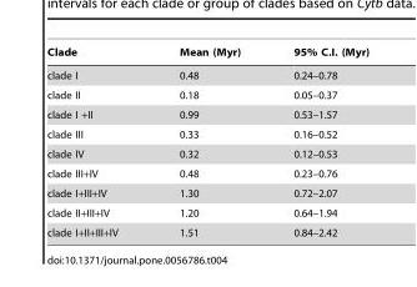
<table><thead><tr><td>Clade</td><td>Mean (Myr)</td><td>95% C.I. (Myr)</td></tr></thead><tbody><tr><td>clade I</td><td>0.48</td><td>0.24–0.78</td></tr><tr><td>clade II</td><td>0.18</td><td>0.05–0.37</td></tr><tr><td>clade I +II</td><td>0.99</td><td>0.53–1.57</td></tr><tr><td>clade III</td><td>0.33</td><td>0.16–0.52</td></tr><tr><td>clade IV</td><td>0.32</td><td>0.12–0.53</td></tr><tr><td>clade III+IV</td><td>0.48</td><td>0.23–0.76</td></tr><tr><td>clade I+III+IV</td><td>1.30</td><td>0.72–2.07</td></tr><tr><td>clade II+III+IV</td><td>1.20</td><td>0.64–1.94</td></tr><tr><td>clade I+II+III+IV</td><td>1.51</td><td>0.84–2.42</td></tr></tbody></table>